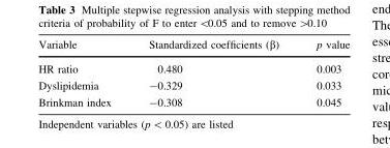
<table><thead><tr><td>Variable</td><td>Standardized coefficients (β)</td><td>p value</td></tr></thead><tbody><tr><td>HR ratio</td><td>0.480</td><td>0.003</td></tr><tr><td>Dyslipidemia</td><td>-0.329</td><td>0.033</td></tr><tr><td>Brinkman index</td><td>-0.308</td><td>0.045</td></tr></tbody></table>